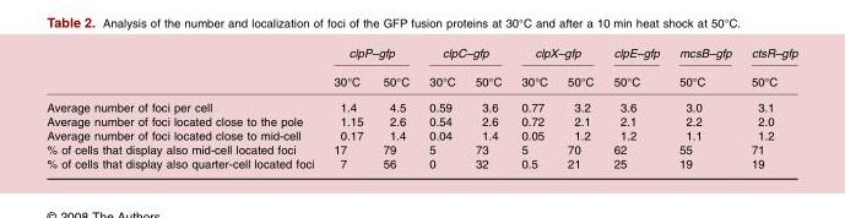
<table><thead><tr><td rowspan="2"></td><td colspan="2">clpP–gfp</td><td colspan="2">clpC–gfp</td><td colspan="2">clpX–gfp</td><td rowspan="2">clpE–gfp 50°C</td><td rowspan="2">mcsB–gfp 50°C</td><td rowspan="2">ctsR–gfp 50°C</td></tr><tr><td>30°C</td><td>50°C</td><td>30°C</td><td>50°C</td><td>30°C</td><td>50°C</td></tr></thead><tbody><tr><td>Average number of foci per cell</td><td>1.4</td><td>4.5</td><td>0.59</td><td>3.6</td><td>0.77</td><td>3.2</td><td>3.6</td><td>3.0</td><td>3.1</td></tr><tr><td>Average number of foci located close to the pole</td><td>1.15</td><td>2.6</td><td>0.54</td><td>2.6</td><td>0.72</td><td>2.1</td><td>2.1</td><td>2.2</td><td>2.0</td></tr><tr><td>Average number of foci located close to mid-cell</td><td>0.17</td><td>1.4</td><td>0.04</td><td>1.4</td><td>0.05</td><td>1.2</td><td>1.2</td><td>1.1</td><td>1.2</td></tr><tr><td>% of cells that display also mid-cell located foci</td><td>17</td><td>79</td><td>5</td><td>73</td><td>5</td><td>70</td><td>62</td><td>55</td><td>71</td></tr><tr><td>% of cells that display also quarter-cell located foci</td><td>7</td><td>56</td><td>0</td><td>32</td><td>0.5</td><td>21</td><td>25</td><td>19</td><td>19</td></tr></tbody></table>